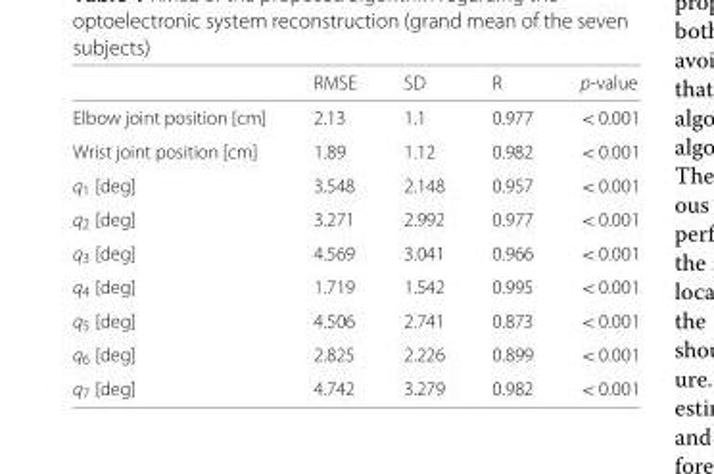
<table><thead><tr><td></td><td>RMSE</td><td>SD</td><td>R</td><td>p-value</td></tr></thead><tbody><tr><td>Elbow joint position [cm]</td><td>2.13</td><td>1.1</td><td>0.977</td><td>&lt; 0.001</td></tr><tr><td>Wrist joint position [cm]</td><td>1.89</td><td>1.12</td><td>0.982</td><td>&lt; 0.001</td></tr><tr><td>q<sub>1</sub> [deg]</td><td>3.548</td><td>2.148</td><td>0.957</td><td>&lt; 0.001</td></tr><tr><td>q<sub>2</sub> [deg]</td><td>3.271</td><td>2.992</td><td>0.977</td><td>&lt; 0.001</td></tr><tr><td>q<sub>3</sub> [deg]</td><td>4.569</td><td>3.041</td><td>0.966</td><td>&lt; 0.001</td></tr><tr><td>q<sub>4</sub> [deg]</td><td>1.719</td><td>1.542</td><td>0.995</td><td>&lt; 0.001</td></tr><tr><td>q<sub>5</sub> [deg]</td><td>4.506</td><td>2.741</td><td>0.873</td><td>&lt; 0.001</td></tr><tr><td>q<sub>6</sub> [deg]</td><td>2.825</td><td>2.226</td><td>0.899</td><td>&lt; 0.001</td></tr><tr><td>q<sub>7</sub> [deg]</td><td>4.742</td><td>3.279</td><td>0.982</td><td>&lt; 0.001</td></tr></tbody></table>